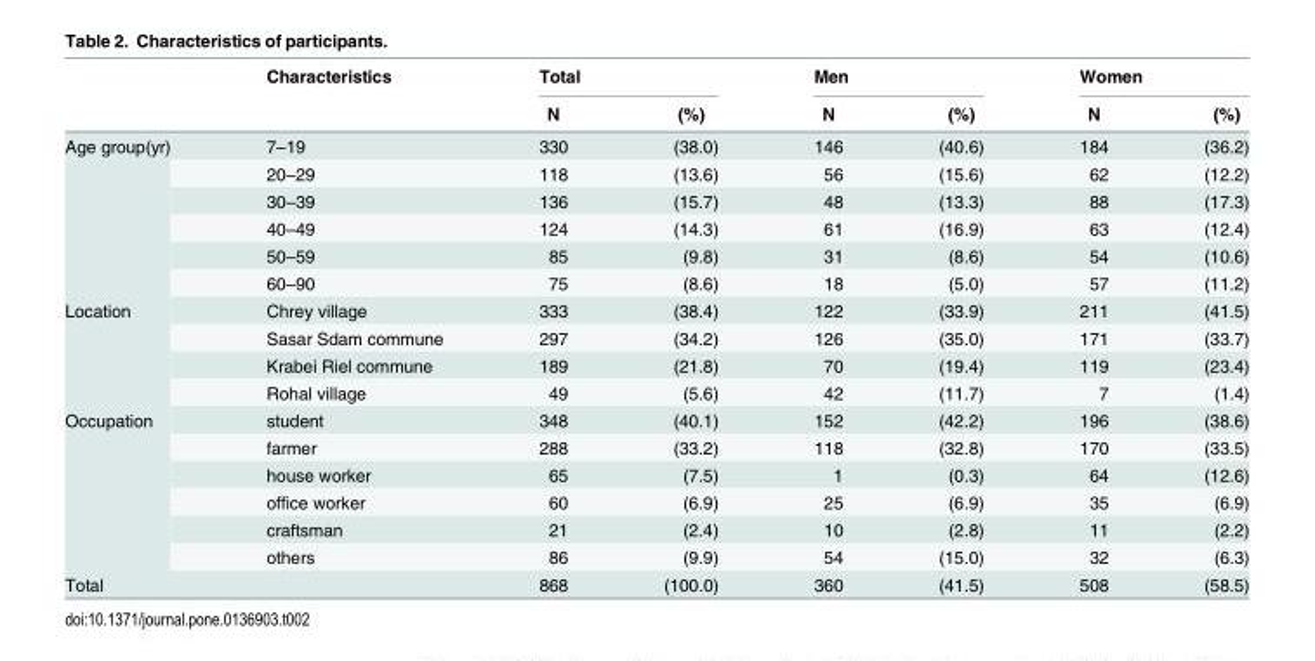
<table><thead><tr><td rowspan="2"></td><td rowspan="2">Characteristics</td><td colspan="2">Total</td><td colspan="2">Men</td><td colspan="2">Women</td></tr><tr><td>N</td><td>(%)</td><td>N</td><td>(%)</td><td>N</td><td>(%)</td></tr></thead><tbody><tr><td rowspan="6">Age group(yr)</td><td>7–19</td><td>330</td><td>(38.0)</td><td>146</td><td>(40.6)</td><td>184</td><td>(36.2)</td></tr><tr><td>20–29</td><td>118</td><td>(13.6)</td><td>56</td><td>(15.6)</td><td>62</td><td>(12.2)</td></tr><tr><td>30–39</td><td>136</td><td>(15.7)</td><td>48</td><td>(13.3)</td><td>88</td><td>(17.3)</td></tr><tr><td>40–49</td><td>124</td><td>(14.3)</td><td>61</td><td>(16.9)</td><td>63</td><td>(12.4)</td></tr><tr><td>50–59</td><td>85</td><td>(9.8)</td><td>31</td><td>(8.6)</td><td>54</td><td>(10.6)</td></tr><tr><td>60–90</td><td>75</td><td>(8.6)</td><td>18</td><td>(5.0)</td><td>57</td><td>(11.2)</td></tr><tr><td rowspan="4">Location</td><td>Chrey village</td><td>333</td><td>(38.4)</td><td>122</td><td>(33.9)</td><td>211</td><td>(41.5)</td></tr><tr><td>Sasar Sdam commune</td><td>297</td><td>(34.2)</td><td>126</td><td>(35.0)</td><td>171</td><td>(33.7)</td></tr><tr><td>Krabei Riel commune</td><td>189</td><td>(21.8)</td><td>70</td><td>(19.4)</td><td>119</td><td>(23.4)</td></tr><tr><td>Rohal village</td><td>49</td><td>(5.6)</td><td>42</td><td>(11.7)</td><td>7</td><td>(1.4)</td></tr><tr><td rowspan="6">Occupation</td><td>student</td><td>348</td><td>(40.1)</td><td>152</td><td>(42.2)</td><td>196</td><td>(38.6)</td></tr><tr><td>farmer</td><td>288</td><td>(33.2)</td><td>118</td><td>(32.8)</td><td>170</td><td>(33.5)</td></tr><tr><td>house worker</td><td>65</td><td>(7.5)</td><td>1</td><td>(0.3)</td><td>64</td><td>(12.6)</td></tr><tr><td>office worker</td><td>60</td><td>(6.9)</td><td>25</td><td>(6.9)</td><td>35</td><td>(6.9)</td></tr><tr><td>craftsman</td><td>21</td><td>(2.4)</td><td>10</td><td>(2.8)</td><td>11</td><td>(2.2)</td></tr><tr><td>others</td><td>86</td><td>(9.9)</td><td>54</td><td>(15.0)</td><td>32</td><td>(6.3)</td></tr><tr><td colspan="2">Total</td><td>868</td><td>(100.0)</td><td>360</td><td>(41.5)</td><td>508</td><td>(58.5)</td></tr></tbody></table>